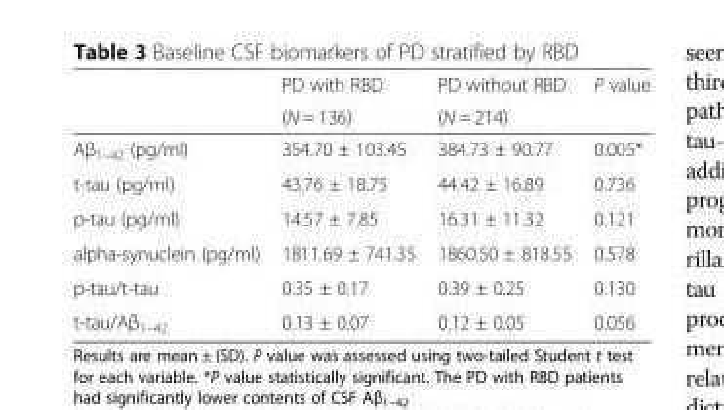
<table><thead><tr><td rowspan="2"></td><td rowspan="2">PD with RBD (N = 136)</td><td rowspan="2">PD without RBD (N = 214)</td><td rowspan="2">P value</td></tr><tr></tr></thead><tbody><tr><td>Aβ<sub>1–42</sub> (pg/ml)</td><td>354.70 ± 103.45</td><td>384.73 ± 90.77</td><td>0.005*</td></tr><tr><td>t-tau (pg/ml)</td><td>43.76 ± 18.75</td><td>44.42 ± 16.89</td><td>0.736</td></tr><tr><td>p-tau (pg/ml)</td><td>14.57 ± 7.85</td><td>16.31 ± 11.32</td><td>0.121</td></tr><tr><td>alpha-synuclein (pg/ml)</td><td>1811.69 ± 741.35</td><td>1860.50 ± 818.55</td><td>0.578</td></tr><tr><td>p-tau/t-tau</td><td>0.35 ± 0.17</td><td>0.39 ± 0.25</td><td>0.130</td></tr><tr><td>t-tau/Aβ<sub>1–42</sub></td><td>0.13 ± 0.07</td><td>0.12 ± 0.05</td><td>0.056</td></tr></tbody></table>